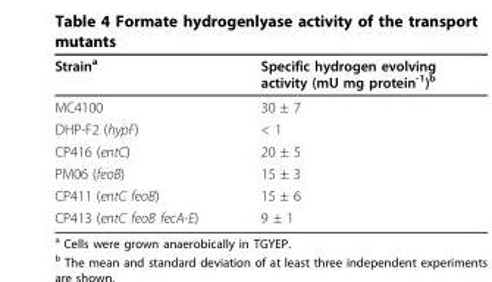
<table><thead><tr><td>Strain<sup>a</sup></td><td>Specific hydrogen evolving activity (mU mg protein<sup>-1</sup>)<sup>b</sup></td></tr></thead><tbody><tr><td>MC4100</td><td>30 ± 7</td></tr><tr><td>DHP-F2 (hypF)</td><td>&lt; 1</td></tr><tr><td>CP416 (entC)</td><td>20 ± 5</td></tr><tr><td>PM06 (feoB)</td><td>15 ± 3</td></tr><tr><td>CP411 (entC feoB)</td><td>15 ± 6</td></tr><tr><td>CP413 (entC feoB fecA-E)</td><td>9 ± 1</td></tr></tbody></table>